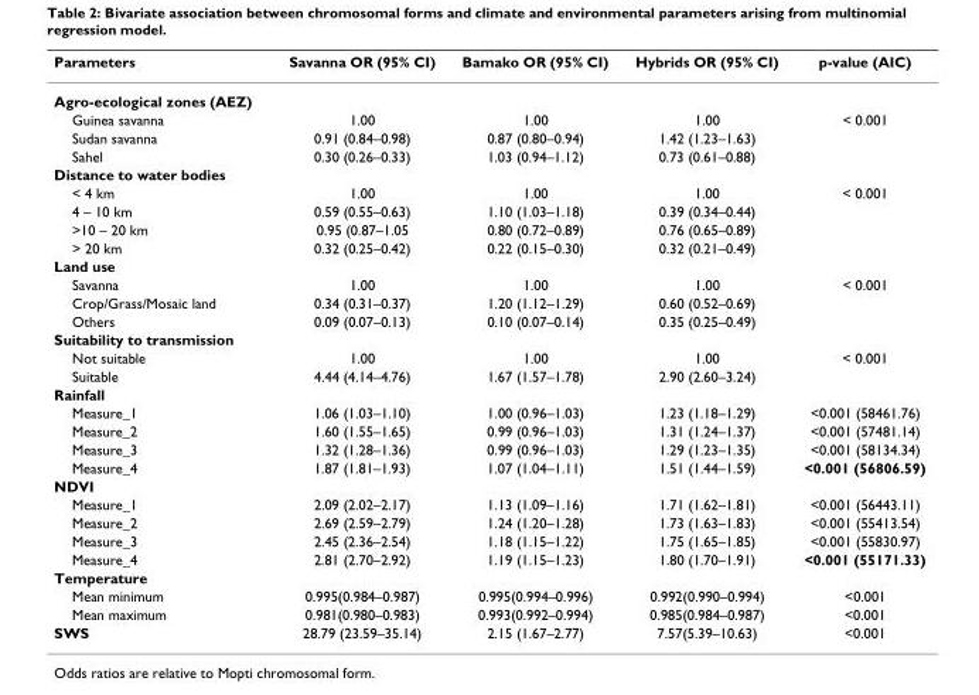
<table><thead><tr><td>Parameters</td><td>Savanna OR (95% CI)</td><td>Bamako OR (95% CI)</td><td>Hybrids OR (95% CI)</td><td>p-value (AIC)</td></tr></thead><tbody><tr><td colspan="5">Agro-ecological zones (AEZ)</td></tr><tr><td>Guinea savanna</td><td>1.00</td><td>1.00</td><td>1.00</td><td>&lt; 0.001</td></tr><tr><td>Sudan savanna</td><td>0.91 (0.84–0.98)</td><td>0.87 (0.80–0.94)</td><td>1.42 (1.23–1.63)</td><td></td></tr><tr><td>Sahel</td><td>0.30 (0.26–0.33)</td><td>1.03 (0.94–1.12)</td><td>0.73 (0.61–0.88)</td><td></td></tr><tr><td colspan="5">Distance to water bodies</td></tr><tr><td>&lt; 4 km</td><td>1.00</td><td>1.00</td><td>1.00</td><td>&lt; 0.001</td></tr><tr><td>4 – 10 km</td><td>0.59 (0.55–0.63)</td><td>1.10 (1.03–1.18)</td><td>0.39 (0.34–0.44)</td><td></td></tr><tr><td>&gt;10 – 20 km</td><td>0.95 (0.87–1.05</td><td>0.80 (0.72–0.89)</td><td>0.76 (0.65–0.89)</td><td></td></tr><tr><td>&gt; 20 km</td><td>0.32 (0.25–0.42)</td><td>0.22 (0.15–0.30)</td><td>0.32 (0.21–0.49)</td><td></td></tr><tr><td colspan="5">Land use</td></tr><tr><td>Savanna</td><td>1.00</td><td>1.00</td><td>1.00</td><td>&lt; 0.001</td></tr><tr><td>Crop/Grass/Mosaic land</td><td>0.34 (0.31–0.37)</td><td>1.20 (1.12–1.29)</td><td>0.60 (0.52–0.69)</td><td></td></tr><tr><td>Others</td><td>0.09 (0.07–0.13)</td><td>0.10 (0.07–0.14)</td><td>0.35 (0.25–0.49)</td><td></td></tr><tr><td colspan="5">Suitability to transmission</td></tr><tr><td>Not suitable</td><td>1.00</td><td>1.00</td><td>1.00</td><td>&lt; 0.001</td></tr><tr><td>Suitable</td><td>4.44 (4.14–4.76)</td><td>1.67 (1.57–1.78)</td><td>2.90 (2.60–3.24)</td><td></td></tr><tr><td colspan="5">Rainfall</td></tr><tr><td>Measure_1</td><td>1.06 (1.03–1.10)</td><td>1.00 (0.96–1.03)</td><td>1.23 (1.18–1.29)</td><td>&lt;0.001 (58461.76)</td></tr><tr><td>Measure_2</td><td>1.60 (1.55–1.65)</td><td>0.99 (0.96–1.03)</td><td>1.31 (1.24–1.37)</td><td>&lt;0.001 (57481.14)</td></tr><tr><td>Measure_3</td><td>1.32 (1.28–1.36)</td><td>0.99 (0.96–1.03)</td><td>1.29 (1.23–1.35)</td><td>&lt;0.001 (58134.34)</td></tr><tr><td>Measure_4</td><td>1.87 (1.81–1.93)</td><td>1.07 (1.04–1.11)</td><td>1.51 (1.44–1.59)</td><td>&lt;0.001 (56806.59)</td></tr><tr><td colspan="5">NDVI</td></tr><tr><td>Measure_1</td><td>2.09 (2.02–2.17)</td><td>1.13 (1.09–1.16)</td><td>1.71 (1.62–1.81)</td><td>&lt;0.001 (56443.11)</td></tr><tr><td>Measure_2</td><td>2.69 (2.59–2.79)</td><td>1.24 (1.20–1.28)</td><td>1.73 (1.63–1.83)</td><td>&lt;0.001 (55413.54)</td></tr><tr><td>Measure_3</td><td>2.45 (2.36–2.54)</td><td>1.18 (1.15–1.22)</td><td>1.75 (1.65–1.85)</td><td>&lt;0.001 (55830.97)</td></tr><tr><td>Measure_4</td><td>2.81 (2.70–2.92)</td><td>1.19 (1.15–1.23)</td><td>1.80 (1.70–1.91)</td><td>&lt;0.001 (55171.33)</td></tr><tr><td colspan="5">Temperature</td></tr><tr><td>Mean minimum</td><td>0.995(0.984–0.987)</td><td>0.995(0.994–0.996)</td><td>0.992(0.990–0.994)</td><td>&lt;0.001</td></tr><tr><td>Mean maximum</td><td>0.981(0.980–0.983)</td><td>0.993(0.992–0.994)</td><td>0.985(0.984–0.987)</td><td>&lt;0.001</td></tr><tr><td>SWS</td><td>28.79 (23.59–35.14)</td><td>2.15 (1.67–2.77)</td><td>7.57(5.39–10.63)</td><td>&lt;0.001</td></tr></tbody></table>